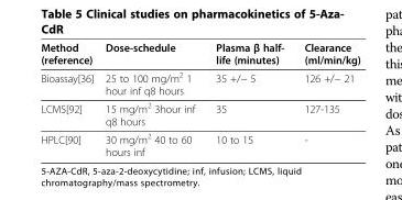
<table><thead><tr><td>Method (reference)</td><td>Dose-schedule</td><td>Plasma β half- life (minutes)</td><td>Clearance (ml/min/kg)</td></tr></thead><tbody><tr><td>Bioassay[36]</td><td>25 to 100 mg/m<sup>2</sup> 1 hour inf q8 hours</td><td>35 +/− 5</td><td>126 +/− 21</td></tr><tr><td>LCMS[92]</td><td>15 mg/m<sup>2</sup> 3hour inf q8 hours</td><td>35</td><td>127-135</td></tr><tr><td>HPLC[90]</td><td>30 mg/m<sup>2</sup> 40 to 60 hours inf</td><td>10 to 15</td><td>-</td></tr></tbody></table>